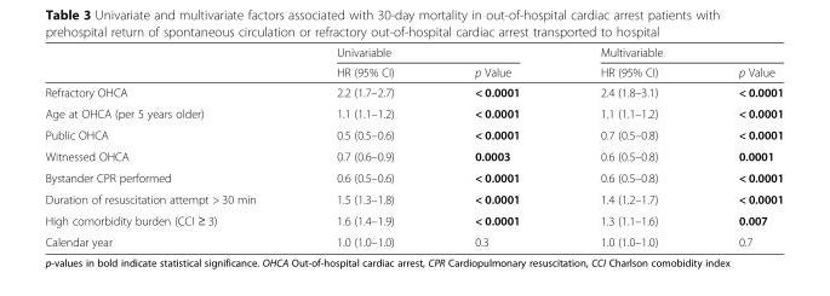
<table><thead><tr><td rowspan="2"></td><td colspan="2">Univariable</td><td colspan="2">Multivariable</td></tr><tr><td>HR (95% CI)</td><td>p Value</td><td>HR (95% CI)</td><td>p Value</td></tr></thead><tbody><tr><td>Refractory OHCA</td><td>2.2 (1.7–2.7)</td><td>&lt; 0.0001</td><td>2.4 (1.8–3.1)</td><td>&lt; 0.0001</td></tr><tr><td>Age at OHCA (per 5 years older)</td><td>1.1 (1.1–1.2)</td><td>&lt; 0.0001</td><td>1.1 (1.1–1.2)</td><td>&lt; 0.0001</td></tr><tr><td>Public OHCA</td><td>0.5 (0.5–0.6)</td><td>&lt; 0.0001</td><td>0.7 (0.5–0.8)</td><td>&lt; 0.0001</td></tr><tr><td>Witnessed OHCA</td><td>0.7 (0.6–0.9)</td><td>0.0003</td><td>0.6 (0.5–0.8)</td><td>0.0001</td></tr><tr><td>Bystander CPR performed</td><td>0.6 (0.5–0.6)</td><td>&lt; 0.0001</td><td>0.6 (0.5–0.8)</td><td>&lt; 0.0001</td></tr><tr><td>Duration of resuscitation attempt &gt; 30 min</td><td>1.5 (1.3–1.8)</td><td>&lt; 0.0001</td><td>1.4 (1.2–1.7)</td><td>&lt; 0.0001</td></tr><tr><td>High comorbidity burden (CCI ≥ 3)</td><td>1.6 (1.4–1.9)</td><td>&lt; 0.0001</td><td>1.3 (1.1–1.6)</td><td>0.007</td></tr><tr><td>Calendar year</td><td>1.0 (1.0–1.0)</td><td>0.3</td><td>1.0 (1.0–1.0)</td><td>0.7</td></tr></tbody></table>